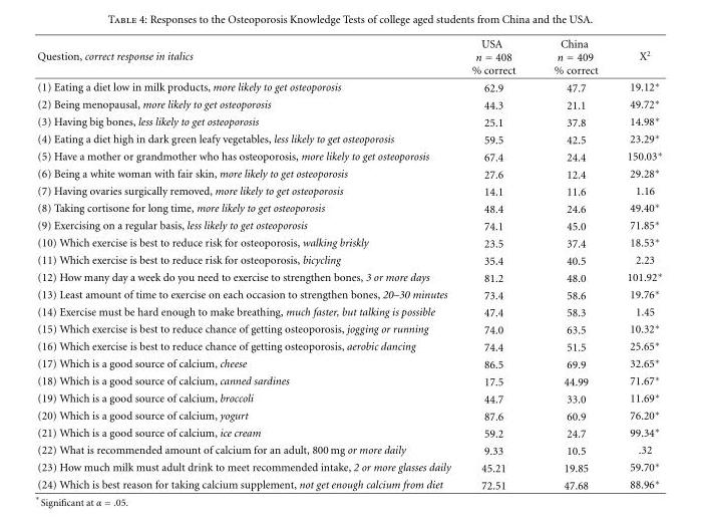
<table><thead><tr><td>Question, correct response in italics</td><td>USA n = 408 % correct</td><td>China n = 409 % correct</td><td>X<sup>2</sup></td></tr></thead><tbody><tr><td>(1) Eating a diet low in milk products, more likely to get osteoporosis</td><td>62.9</td><td>47.7</td><td>19.12∗</td></tr><tr><td>(2) Being menopausal, more likely to get osteoporosis</td><td>44.3</td><td>21.1</td><td>49.72∗</td></tr><tr><td>(3) Having big bones, less likely to get osteoporosis</td><td>25.1</td><td>37.8</td><td>14.98∗</td></tr><tr><td>(4) Eating a diet high in dark green leafy vegetables, less likely to get osteoporosis</td><td>59.5</td><td>42.5</td><td>23.29∗</td></tr><tr><td>(5) Have a mother or grandmother who has osteoporosis, more likely to get osteoporosis</td><td>67.4</td><td>24.4</td><td>150.03∗</td></tr><tr><td>(6) Being a white woman with fair skin, more likely to get osteoporosis</td><td>27.6</td><td>12.4</td><td>29.28∗</td></tr><tr><td>(7) Having ovaries surgically removed, more likely to get osteoporosis</td><td>14.1</td><td>11.6</td><td>1.16</td></tr><tr><td>(8) Taking cortisone for long time, more likely to get osteoporosis</td><td>48.4</td><td>24.6</td><td>49.40∗</td></tr><tr><td>(9) Exercising on a regular basis, less likely to get osteoporosis</td><td>74.1</td><td>45.0</td><td>71.85∗</td></tr><tr><td>(10) Which exercise is best to reduce risk for osteoporosis, walking briskly</td><td>23.5</td><td>37.4</td><td>18.53∗</td></tr><tr><td>(11) Which exercise is best to reduce risk for osteoporosis, bicycling</td><td>35.4</td><td>40.5</td><td>2.23</td></tr><tr><td>(12) How many day a week do you need to exercise to strengthen bones, 3 or more days</td><td>81.2</td><td>48.0</td><td>101.92∗</td></tr><tr><td>(13) Least amount of time to exercise on each occasion to strengthen bones, 20–30 minutes</td><td>73.4</td><td>58.6</td><td>19.76∗</td></tr><tr><td>(14) Exercise must be hard enough to make breathing, much faster, but talking is possible</td><td>47.4</td><td>58.3</td><td>1.45</td></tr><tr><td>(15) Which exercise is best to reduce chance of getting osteoporosis, jogging or running</td><td>74.0</td><td>63.5</td><td>10.32∗</td></tr><tr><td>(16) Which exercise is best to reduce chance of getting osteoporosis, aerobic dancing</td><td>74.4</td><td>51.5</td><td>25.65∗</td></tr><tr><td>(17) Which is a good source of calcium, cheese</td><td>86.5</td><td>69.9</td><td>32.65∗</td></tr><tr><td>(18) Which is a good source of calcium, canned sardines</td><td>17.5</td><td>44.99</td><td>71.67∗</td></tr><tr><td>(19) Which is a good source of calcium, broccoli</td><td>44.7</td><td>33.0</td><td>11.69∗</td></tr><tr><td>(20) Which is a good source of calcium, yogurt</td><td>87.6</td><td>60.9</td><td>76.20∗</td></tr><tr><td>(21) Which is a good source of calcium, ice cream</td><td>59.2</td><td>24.7</td><td>99.34∗</td></tr><tr><td>(22) What is recommended amount of calcium for an adult, 800 mg or more daily</td><td>9.33</td><td>10.5</td><td>.32</td></tr><tr><td>(23) How much milk must adult drink to meet recommended intake, 2 or more glasses daily</td><td>45.21</td><td>19.85</td><td>59.70∗</td></tr><tr><td>(24) Which is best reason for taking calcium supplement, not get enough calcium from diet</td><td>72.51</td><td>47.68</td><td>88.96∗</td></tr></tbody></table>